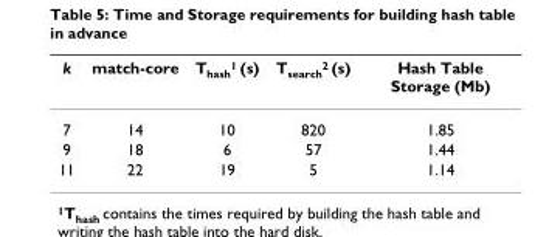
<table><thead><tr><td>k</td><td>match-core</td><td>T<sub>hash</sub><sup>1</sup> (s)</td><td>T<sub>search</sub><sup>2</sup> (s)</td><td>Hash Table Storage (Mb)</td></tr></thead><tbody><tr><td>7</td><td>14</td><td>10</td><td>820</td><td>1.85</td></tr><tr><td>9</td><td>18</td><td>6</td><td>57</td><td>1.44</td></tr><tr><td>11</td><td>22</td><td>19</td><td>5</td><td>1.14</td></tr></tbody></table>